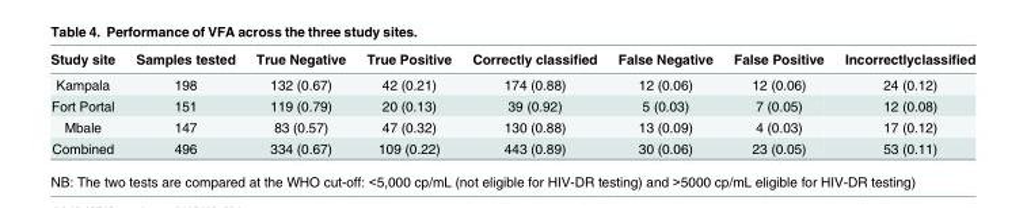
<table><thead><tr><td>Study site</td><td>Samples tested</td><td>True Negative</td><td>True Positive</td><td>Correctly classified</td><td>False Negative</td><td>False Positive</td><td>Incorrectlyclassified</td></tr></thead><tbody><tr><td>Kampala</td><td>198</td><td>132 (0.67)</td><td>42 (0.21)</td><td>174 (0.88)</td><td>12 (0.06)</td><td>12 (0.06)</td><td>24 (0.12)</td></tr><tr><td>Fort Portal</td><td>151</td><td>119 (0.79)</td><td>20 (0.13)</td><td>39 (0.92)</td><td>5 (0.03)</td><td>7 (0.05)</td><td>12 (0.08)</td></tr><tr><td>Mbale</td><td>147</td><td>83 (0.57)</td><td>47 (0.32)</td><td>130 (0.88)</td><td>13 (0.09)</td><td>4 (0.03)</td><td>17 (0.12)</td></tr><tr><td>Combined</td><td>496</td><td>334 (0.67)</td><td>109 (0.22)</td><td>443 (0.89)</td><td>30 (0.06)</td><td>23 (0.05)</td><td>53 (0.11)</td></tr></tbody></table>